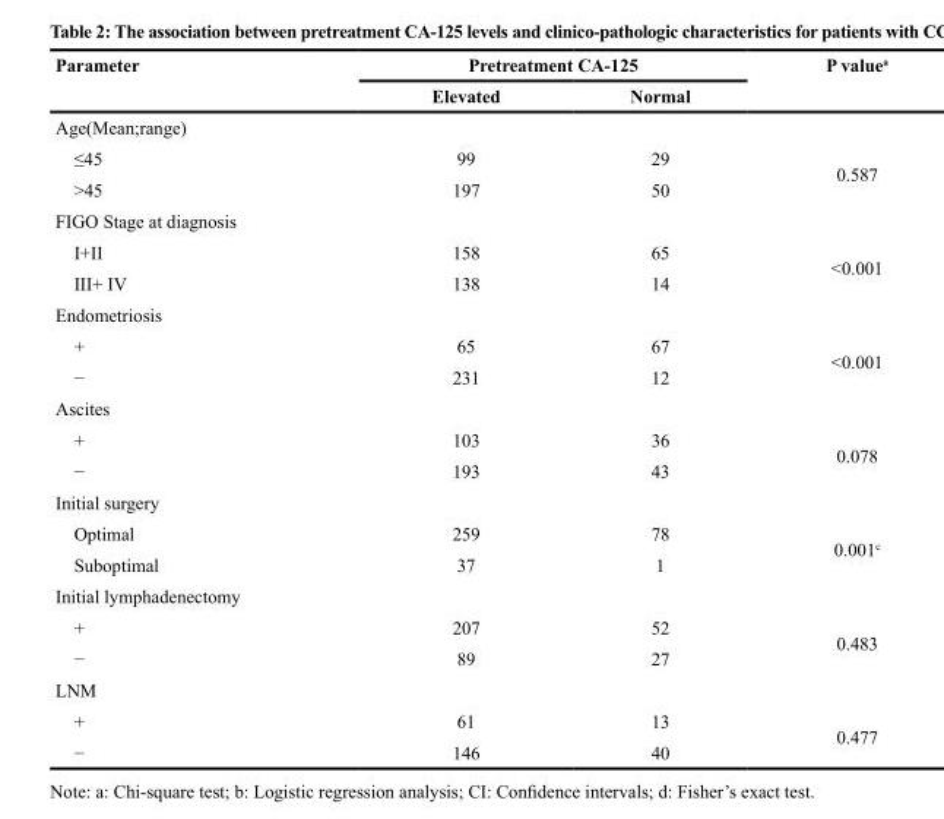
<table><thead><tr><td rowspan="2">Parameter</td><td colspan="2">Pretreatment CA-125</td><td rowspan="2">P value<sup>a</sup></td></tr><tr><td>Elevated</td><td>Normal</td></tr></thead><tbody><tr><td colspan="4">Age(Mean;range)</td></tr><tr><td>≤45</td><td>99</td><td>29</td><td rowspan="2">0.587</td></tr><tr><td>&gt;45</td><td>197</td><td>50</td></tr><tr><td colspan="4">FIGO Stage at diagnosis</td></tr><tr><td>I+II</td><td>158</td><td>65</td><td rowspan="2">&lt;0.001</td></tr><tr><td>III+ IV</td><td>138</td><td>14</td></tr><tr><td colspan="4">Endometriosis</td></tr><tr><td>+</td><td>65</td><td>67</td><td rowspan="2">&lt;0.001</td></tr><tr><td>−</td><td>231</td><td>12</td></tr><tr><td colspan="4">Ascites</td></tr><tr><td>+</td><td>103</td><td>36</td><td rowspan="2">0.078</td></tr><tr><td>−</td><td>193</td><td>43</td></tr><tr><td colspan="4">Initial surgery</td></tr><tr><td>Optimal</td><td>259</td><td>78</td><td rowspan="2">0.001<sup>c</sup></td></tr><tr><td>Suboptimal</td><td>37</td><td>1</td></tr><tr><td colspan="4">Initial lymphadenectomy</td></tr><tr><td>+</td><td>207</td><td>52</td><td rowspan="2">0.483</td></tr><tr><td>−</td><td>89</td><td>27</td></tr><tr><td colspan="4">LNM</td></tr><tr><td>+</td><td>61</td><td>13</td><td rowspan="2">0.477</td></tr><tr><td>−</td><td>146</td><td>40</td></tr></tbody></table>